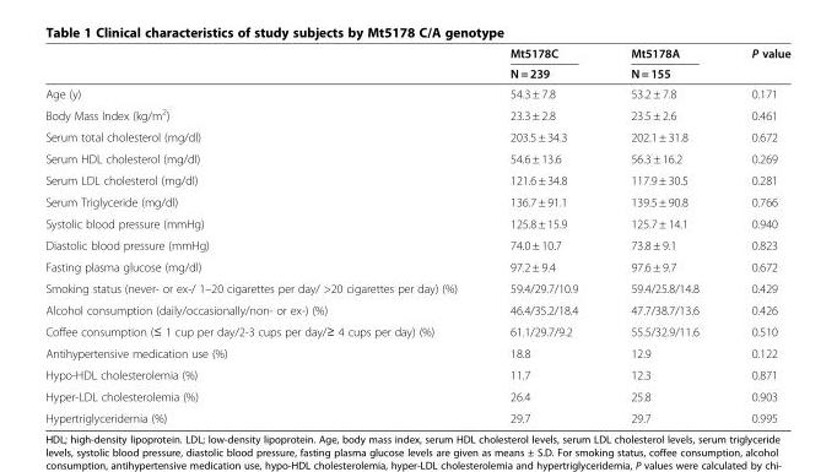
<table><thead><tr><td rowspan="2"></td><td rowspan="2">Mt5178C N = 239</td><td rowspan="2">Mt5178A N = 155</td><td rowspan="2">P value</td></tr><tr></tr></thead><tbody><tr><td>Age (y)</td><td>54.3 ± 7.8</td><td>53.2 ± 7.8</td><td>0.171</td></tr><tr><td>Body Mass Index (kg/m<sup>2</sup>)</td><td>23.3 ± 2.8</td><td>23.5 ± 2.6</td><td>0.461</td></tr><tr><td>Serum total cholesterol (mg/dl)</td><td>203.5 ± 34.3</td><td>202.1 ± 31.8</td><td>0.672</td></tr><tr><td>Serum HDL cholesterol (mg/dl)</td><td>54.6 ± 13.6</td><td>56.3 ± 16.2</td><td>0.269</td></tr><tr><td>Serum LDL cholesterol (mg/dl)</td><td>121.6 ± 34.8</td><td>117.9 ± 30.5</td><td>0.281</td></tr><tr><td>Serum Triglyceride (mg/dl)</td><td>136.7 ± 91.1</td><td>139.5 ± 90.8</td><td>0.766</td></tr><tr><td>Systolic blood pressure (mmHg)</td><td>125.8 ± 15.9</td><td>125.7 ± 14.1</td><td>0.940</td></tr><tr><td>Diastolic blood pressure (mmHg)</td><td>74.0 ± 10.7</td><td>73.8 ± 9.1</td><td>0.823</td></tr><tr><td>Fasting plasma glucose (mg/dl)</td><td>97.2 ± 9.4</td><td>97.6 ± 9.7</td><td>0.672</td></tr><tr><td>Smoking status (never- or ex-/ 1–20 cigarettes per day/ &gt;20 cigarettes per day) (%)</td><td>59.4/29.7/10.9</td><td>59.4/25.8/14.8</td><td>0.429</td></tr><tr><td>Alcohol consumption (daily/occasionally/non- or ex-) (%)</td><td>46.4/35.2/18.4</td><td>47.7/38.7/13.6</td><td>0.426</td></tr><tr><td>Coffee consumption (≤ 1 cup per day/2-3 cups per day/≥ 4 cups per day) (%)</td><td>61.1/29.7/9.2</td><td>55.5/32.9/11.6</td><td>0.510</td></tr><tr><td>Antihypertensive medication use (%)</td><td>18.8</td><td>12.9</td><td>0.122</td></tr><tr><td>Hypo-HDL cholesterolemia (%)</td><td>11.7</td><td>12.3</td><td>0.871</td></tr><tr><td>Hyper-LDL cholesterolemia (%)</td><td>26.4</td><td>25.8</td><td>0.903</td></tr><tr><td>Hypertriglyceridemia (%)</td><td>29.7</td><td>29.7</td><td>0.995</td></tr></tbody></table>